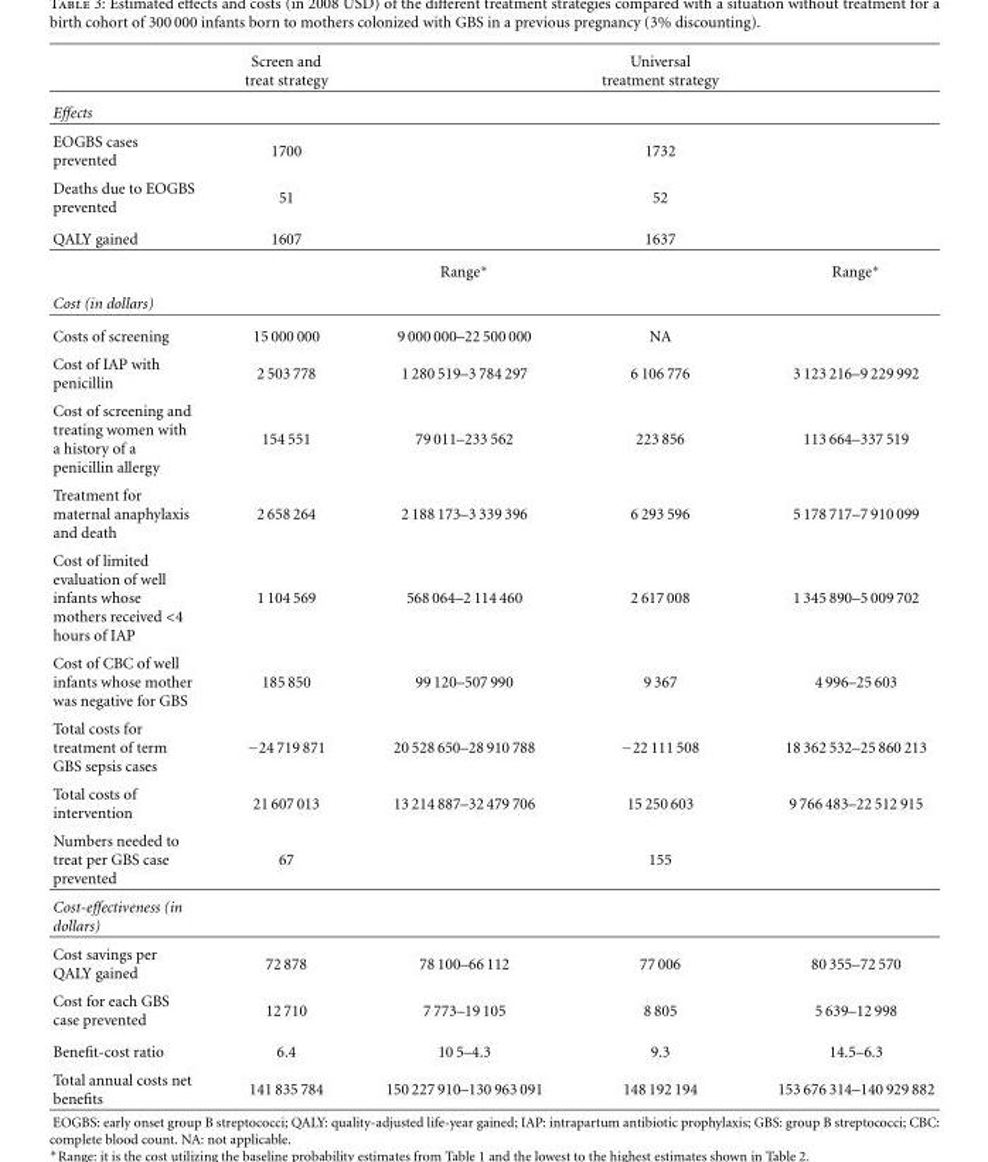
<table><thead><tr><td></td><td>Screen and treat strategy</td><td></td><td>Universal treatment strategy</td><td></td></tr></thead><tbody><tr><td colspan="5">Effects</td></tr><tr><td>EOGBS cases prevented</td><td>1700</td><td></td><td>1732</td><td></td></tr><tr><td>Deaths due to EOGBS prevented</td><td>51</td><td></td><td>52</td><td></td></tr><tr><td rowspan="2">QALY gained</td><td>1607</td><td></td><td>1637</td><td></td></tr><tr><td></td><td>Range∗</td><td></td><td>Range∗</td></tr><tr><td colspan="5">Cost (in dollars)</td></tr><tr><td>Costs of screening</td><td>15 000 000</td><td>9 000 000–22 500 000</td><td>NA</td><td></td></tr><tr><td>Cost of IAP with penicillin</td><td>2 503 778</td><td>1 280 519–3 784 297</td><td>6 106 776</td><td>3 123 216–9 229 992</td></tr><tr><td>Cost of screening and treating women with a history of a penicillin allergy</td><td>154 551</td><td>79 011–233 562</td><td>223 856</td><td>113 664–337 519</td></tr><tr><td>Treatment for maternal anaphylaxis and death</td><td>2 658 264</td><td>2 188 173–3 339 396</td><td>6 293 596</td><td>5 178 717–7 910 099</td></tr><tr><td>Cost of limited evaluation of well infants whose mothers received &lt;4 hours of IAP</td><td>1 104 569</td><td>568 064–2 114 460</td><td>2 617 008</td><td>1 345 890–5 009 702</td></tr><tr><td>Cost of CBC of well infants whose mother was negative for GBS</td><td>185 850</td><td>99 120–507 990</td><td>9 367</td><td>4 996–25 603</td></tr><tr><td>Total costs for treatment of term GBS sepsis cases</td><td>−24 719 871</td><td>20 528 650–28 910 788</td><td>−22 111 508</td><td>18 362 532–25 860 213</td></tr><tr><td>Total costs of intervention</td><td>21 607 013</td><td>13 214 887–32 479 706</td><td>15 250 603</td><td>9 766 483–22 512 915</td></tr><tr><td>Numbers needed to treat per GBS case prevented</td><td>67</td><td></td><td>155</td><td></td></tr><tr><td colspan="5">Cost-effectiveness (in dollars)</td></tr><tr><td>Cost savings per QALY gained</td><td>72 878</td><td>78 100–66 112</td><td>77 006</td><td>80 355–72 570</td></tr><tr><td>Cost for each GBS case prevented</td><td>12 710</td><td>7 773–19 105</td><td>8 805</td><td>5 639–12 998</td></tr><tr><td>Benefit-cost ratio</td><td>6.4</td><td>10 5–4.3</td><td>9.3</td><td>14.5–6.3</td></tr><tr><td>Total annual costs net benefits</td><td>141 835 784</td><td>150 227 910–130 963 091</td><td>148 192 194</td><td>153 676 314–140 929 882</td></tr></tbody></table>